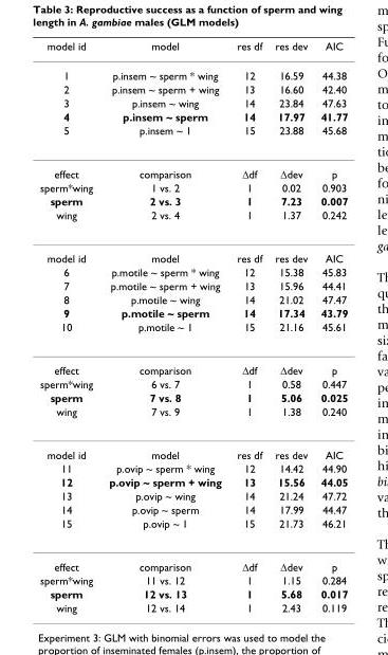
<table><thead><tr><td>model id</td><td>model</td><td>res df</td><td>res dev</td><td>AIC</td></tr></thead><tbody><tr><td>1</td><td>p.insem ~ sperm * wing</td><td>12</td><td>16.59</td><td>44.38</td></tr><tr><td>2</td><td>p.insem ~ sperm + wing</td><td>13</td><td>16.60</td><td>42.40</td></tr><tr><td>3</td><td>p.insem ~ wing</td><td>14</td><td>23.84</td><td>47.63</td></tr><tr><td>4</td><td>p.insem ~ sperm</td><td>14</td><td>17.97</td><td>41.77</td></tr><tr><td>5</td><td>p.insem ~ 1</td><td>15</td><td>23.88</td><td>45.68</td></tr><tr><td>effect</td><td>comparison</td><td>Δdf</td><td>Δdev</td><td>p</td></tr><tr><td>sperm*wing</td><td>1 vs. 2</td><td>1</td><td>0.02</td><td>0.903</td></tr><tr><td>sperm</td><td>2 vs. 3</td><td>1</td><td>7.23</td><td>0.007</td></tr><tr><td>wing</td><td>2 vs. 4</td><td>1</td><td>1.37</td><td>0.242</td></tr><tr><td>model id</td><td>model</td><td>res df</td><td>res dev</td><td>AIC</td></tr><tr><td>6</td><td>p.motile ~ sperm * wing</td><td>12</td><td>15.38</td><td>45.83</td></tr><tr><td>7</td><td>p.motile ~ sperm + wing</td><td>13</td><td>15.96</td><td>44.41</td></tr><tr><td>8</td><td>p.motile ~ wing</td><td>14</td><td>21.02</td><td>47.47</td></tr><tr><td>9</td><td>p.motile ~ sperm</td><td>14</td><td>17.34</td><td>43.79</td></tr><tr><td>10</td><td>p.motile ~ 1</td><td>15</td><td>21.16</td><td>45.61</td></tr><tr><td>effect</td><td>comparison</td><td>Δdf</td><td>Δdev</td><td>p</td></tr><tr><td>sperm*wing</td><td>6 vs. 7</td><td>1</td><td>0.58</td><td>0.447</td></tr><tr><td>sperm</td><td>7 vs. 8</td><td>1</td><td>5.06</td><td>0.025</td></tr><tr><td>wing</td><td>7 vs. 9</td><td>1</td><td>1.38</td><td>0.240</td></tr><tr><td>model id</td><td>model</td><td>res df</td><td>res dev</td><td>AIC</td></tr><tr><td>11</td><td>p.ovip ~ sperm * wing</td><td>12</td><td>14.42</td><td>44.90</td></tr><tr><td>12</td><td>p.ovip ~ sperm + wing</td><td>13</td><td>15.56</td><td>44.05</td></tr><tr><td>13</td><td>p.ovip ~ wing</td><td>14</td><td>21.24</td><td>47.72</td></tr><tr><td>14</td><td>p.ovip ~ sperm</td><td>14</td><td>17.99</td><td>44.47</td></tr><tr><td>15</td><td>p.ovip ~ 1</td><td>15</td><td>21.73</td><td>46.21</td></tr><tr><td>effect</td><td>comparison</td><td>Δdf</td><td>Δdev</td><td>p</td></tr><tr><td>sperm*wing</td><td>11 vs. 12</td><td>1</td><td>1.15</td><td>0.284</td></tr><tr><td>sperm</td><td>12 vs. 13</td><td>1</td><td>5.68</td><td>0.017</td></tr><tr><td>wing</td><td>12 vs. 14</td><td>1</td><td>2.43</td><td>0.119</td></tr></tbody></table>